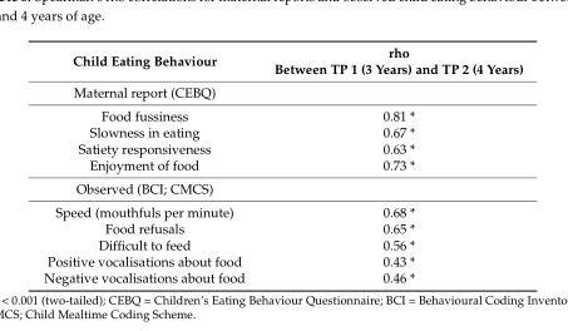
<table><thead><tr><td>Child Eating Behaviour</td><td>rho Between TP 1 (3 Years) and TP 2 (4 Years)</td></tr></thead><tbody><tr><td colspan="2">Maternal report (CEBQ)</td></tr><tr><td>Food fussiness</td><td>0.81 *</td></tr><tr><td>Slowness in eating</td><td>0.67 *</td></tr><tr><td>Satiety responsiveness</td><td>0.63 *</td></tr><tr><td>Enjoyment of food</td><td>0.73 *</td></tr><tr><td colspan="2">Observed (BCI; CMCS)</td></tr><tr><td>Speed (mouthfuls per minute)</td><td>0.68 *</td></tr><tr><td>Food refusals</td><td>0.65 *</td></tr><tr><td>Difficult to feed</td><td>0.56 *</td></tr><tr><td>Positive vocalisations about food</td><td>0.43 *</td></tr><tr><td>Negative vocalisations about food</td><td>0.46 *</td></tr></tbody></table>